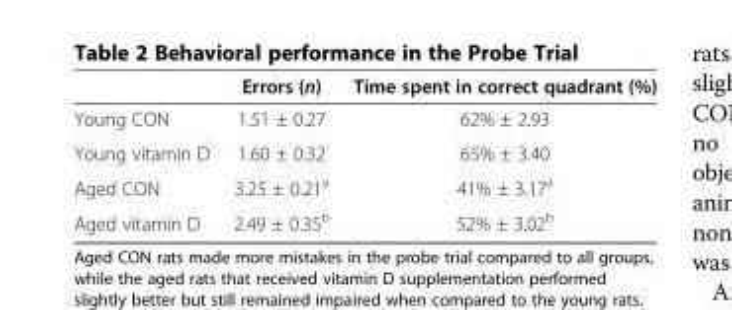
<table><thead><tr><td></td><td>Errors (n)</td><td>Time spent in correct quadrant (%)</td></tr></thead><tbody><tr><td>Young CON</td><td>1.51 ± 0.27</td><td>62% ± 2.93</td></tr><tr><td>Young vitamin D</td><td>1.60 ± 0.32</td><td>65% ± 3.40</td></tr><tr><td>Aged CON</td><td>3.25 ± 0.21<sup>a</sup></td><td>41% ± 3.17<sup>a</sup></td></tr><tr><td>Aged vitamin D</td><td>2.49 ± 0.35<sup>b</sup></td><td>52% ± 3.02<sup>b</sup></td></tr></tbody></table>